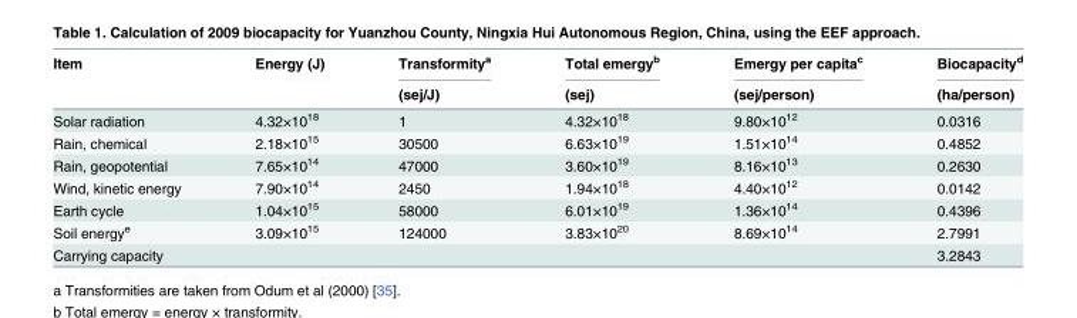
<table><thead><tr><td rowspan="2">Item</td><td rowspan="2">Energy (J)</td><td rowspan="2">Transformity<sup>a</sup> (sej/J)</td><td rowspan="2">Total emergy<sup>b</sup> (sej)</td><td rowspan="2">Emergy per capita<sup>c</sup> (sej/person)</td><td rowspan="2">Biocapacity<sup>d</sup> (ha/person)</td></tr><tr></tr></thead><tbody><tr><td>Solar radiation</td><td>4.32×10<sup>18</sup></td><td>1</td><td>4.32×10<sup>18</sup></td><td>9.80×10<sup>12</sup></td><td>0.0316</td></tr><tr><td>Rain, chemical</td><td>2.18×10<sup>15</sup></td><td>30500</td><td>6.63×10<sup>19</sup></td><td>1.51×10<sup>14</sup></td><td>0.4852</td></tr><tr><td>Rain, geopotential</td><td>7.65×10<sup>14</sup></td><td>47000</td><td>3.60×10<sup>19</sup></td><td>8.16×10<sup>13</sup></td><td>0.2630</td></tr><tr><td>Wind, kinetic energy</td><td>7.90×10<sup>14</sup></td><td>2450</td><td>1.94×10<sup>18</sup></td><td>4.40×10<sup>12</sup></td><td>0.0142</td></tr><tr><td>Earth cycle</td><td>1.04×10<sup>15</sup></td><td>58000</td><td>6.01×10<sup>19</sup></td><td>1.36×10<sup>14</sup></td><td>0.4396</td></tr><tr><td>Soil energy<sup>e</sup></td><td>3.09×10<sup>15</sup></td><td>124000</td><td>3.83×10<sup>20</sup></td><td>8.69×10<sup>14</sup></td><td>2.7991</td></tr><tr><td>Carrying capacity</td><td></td><td></td><td></td><td></td><td>3.2843</td></tr></tbody></table>